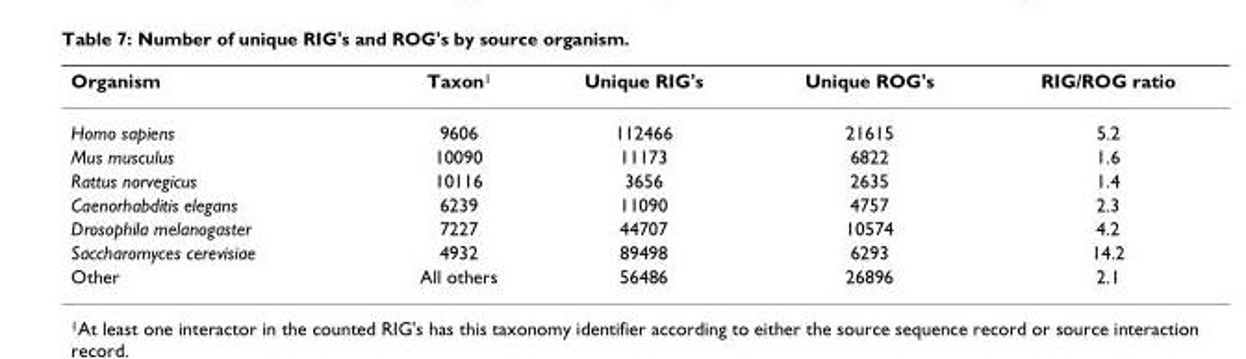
<table><thead><tr><td>Organism</td><td>Taxon<sup>1</sup></td><td>Unique RIG&#x27;s</td><td>Unique ROG&#x27;s</td><td>RIG/ROG ratio</td></tr></thead><tbody><tr><td>Homo sapiens</td><td>9606</td><td>112466</td><td>21615</td><td>5.2</td></tr><tr><td>Mus musculus</td><td>10090</td><td>11173</td><td>6822</td><td>1.6</td></tr><tr><td>Rattus norvegicus</td><td>10116</td><td>3656</td><td>2635</td><td>1.4</td></tr><tr><td>Caenorhabditis elegans</td><td>6239</td><td>11090</td><td>4757</td><td>2.3</td></tr><tr><td>Drosophila melanogaster</td><td>7227</td><td>44707</td><td>10574</td><td>4.2</td></tr><tr><td>Saccharomyces cerevisiae</td><td>4932</td><td>89498</td><td>6293</td><td>14.2</td></tr><tr><td>Other</td><td>All others</td><td>56486</td><td>26896</td><td>2.1</td></tr></tbody></table>